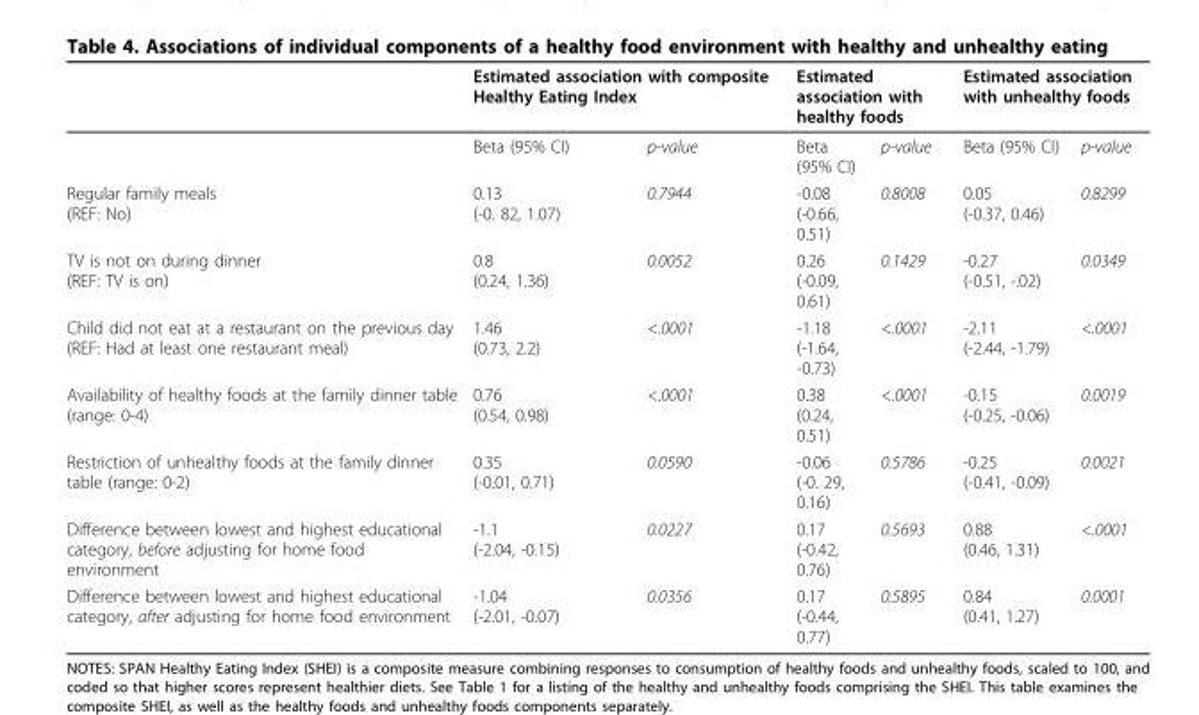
<table><thead><tr><td rowspan="2"></td><td colspan="2">Estimated association with composite Healthy Eating Index</td><td colspan="2">Estimated association with healthy foods</td><td colspan="2">Estimated association with unhealthy foods</td></tr><tr><td>Beta (95% CI)</td><td>p-value</td><td>Beta (95% CI)</td><td>p-value</td><td>Beta (95% CI)</td><td>p-value</td></tr></thead><tbody><tr><td>Regular family meals (REF: No)</td><td>0.13 (-0. 82, 1.07)</td><td>0.7944</td><td>-0.08 (-0.66, 0.51)</td><td>0.8008</td><td>0.05 (-0.37, 0.46)</td><td>0.8299</td></tr><tr><td>TV is not on during dinner (REF: TV is on)</td><td>0.8 (0.24, 1.36)</td><td>0.0052</td><td>0.26 (-0.09, 0.61)</td><td>0.1429</td><td>-0.27 (-0.51, -.02)</td><td>0.0349</td></tr><tr><td>Child did not eat at a restaurant on the previous day (REF: Had at least one restaurant meal)</td><td>1.46 (0.73, 2.2)</td><td>&lt;.0001</td><td>-1.18 (-1.64, -0.73)</td><td>&lt;.0001</td><td>-2.11 (-2.44, -1.79)</td><td>&lt;.0001</td></tr><tr><td>Availability of healthy foods at the family dinner table (range: 0-4)</td><td>0.76 (0.54, 0.98)</td><td>&lt;.0001</td><td>0.38 (0.24, 0.51)</td><td>&lt;.0001</td><td>-0.15 (-0.25, -0.06)</td><td>0.0019</td></tr><tr><td>Restriction of unhealthy foods at the family dinner table (range: 0-2)</td><td>0.35 (-0.01, 0.71)</td><td>0.0590</td><td>-0.06 (-0. 29, 0.16)</td><td>0.5786</td><td>-0.25 (-0.41, -0.09)</td><td>0.0021</td></tr><tr><td>Difference between lowest and highest educational category, before adjusting for home food environment</td><td>-1.1 (-2.04, -0.15)</td><td>0.0227</td><td>0.17 (-0.42, 0.76)</td><td>0.5693</td><td>0.88 (0.46, 1.31)</td><td>&lt;.0001</td></tr><tr><td>Difference between lowest and highest educational category, after adjusting for home food environment</td><td>-1.04 (-2.01, -0.07)</td><td>0.0356</td><td>0.17 (-0.44, 0.77)</td><td>0.5895</td><td>0.84 (0.41, 1.27)</td><td>0.0001</td></tr></tbody></table>